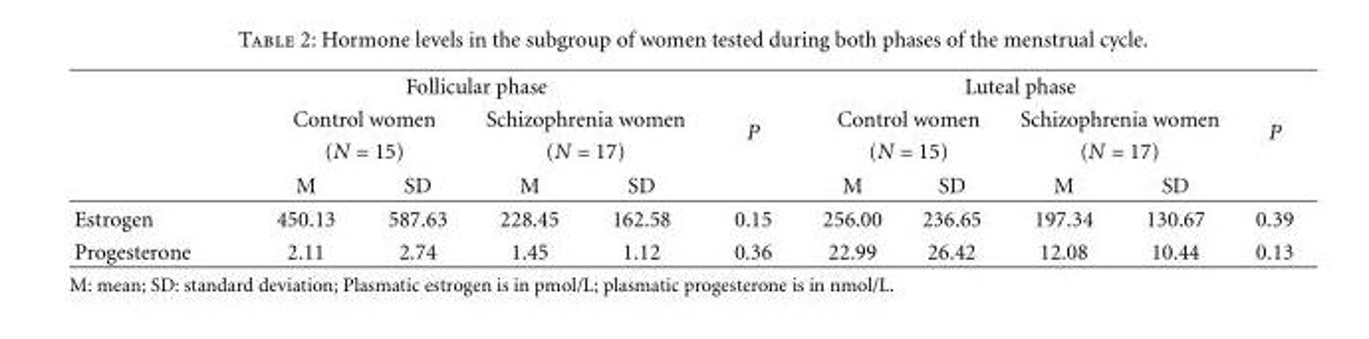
<table><thead><tr><td rowspan="4"></td><td colspan="4">Follicular phase</td><td rowspan="4">P</td><td colspan="4">Luteal phase</td><td rowspan="4">P</td></tr><tr><td rowspan="2" colspan="2">Control women (N = 15)</td><td rowspan="2" colspan="2">Schizophrenia women (N = 17)</td><td rowspan="2" colspan="2">Control women (N = 15)</td><td rowspan="2" colspan="2">Schizophrenia women (N = 17)</td></tr><tr></tr><tr><td>M</td><td>SD</td><td>M</td><td>SD</td><td>M</td><td>SD</td><td>M</td><td>SD</td></tr></thead><tbody><tr><td>Estrogen</td><td>450.13</td><td>587.63</td><td>228.45</td><td>162.58</td><td>0.15</td><td>256.00</td><td>236.65</td><td>197.34</td><td>130.67</td><td>0.39</td></tr><tr><td>Progesterone</td><td>2.11</td><td>2.74</td><td>1.45</td><td>1.12</td><td>0.36</td><td>22.99</td><td>26.42</td><td>12.08</td><td>10.44</td><td>0.13</td></tr></tbody></table>